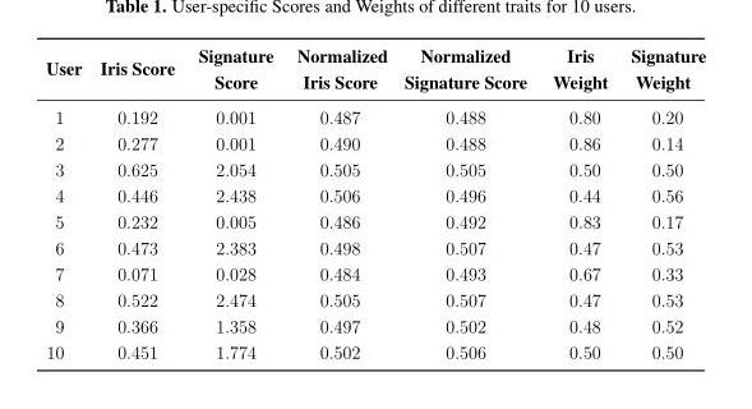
<table><thead><tr><td>User</td><td>Iris Score</td><td>Signature Score</td><td>Normalized Iris Score</td><td>Normalized Signature Score</td><td>Iris Weight</td><td>Signature Weight</td></tr></thead><tbody><tr><td>1</td><td>0.192</td><td>0.001</td><td>0.487</td><td>0.488</td><td>0.80</td><td>0.20</td></tr><tr><td>2</td><td>0.277</td><td>0.001</td><td>0.490</td><td>0.488</td><td>0.86</td><td>0.14</td></tr><tr><td>3</td><td>0.625</td><td>2.054</td><td>0.505</td><td>0.505</td><td>0.50</td><td>0.50</td></tr><tr><td>4</td><td>0.446</td><td>2.438</td><td>0.506</td><td>0.496</td><td>0.44</td><td>0.56</td></tr><tr><td>5</td><td>0.232</td><td>0.005</td><td>0.486</td><td>0.492</td><td>0.83</td><td>0.17</td></tr><tr><td>6</td><td>0.473</td><td>2.383</td><td>0.498</td><td>0.507</td><td>0.47</td><td>0.53</td></tr><tr><td>7</td><td>0.071</td><td>0.028</td><td>0.484</td><td>0.493</td><td>0.67</td><td>0.33</td></tr><tr><td>8</td><td>0.522</td><td>2.474</td><td>0.505</td><td>0.507</td><td>0.47</td><td>0.53</td></tr><tr><td>9</td><td>0.366</td><td>1.358</td><td>0.497</td><td>0.502</td><td>0.48</td><td>0.52</td></tr><tr><td>10</td><td>0.451</td><td>1.774</td><td>0.502</td><td>0.506</td><td>0.50</td><td>0.50</td></tr></tbody></table>